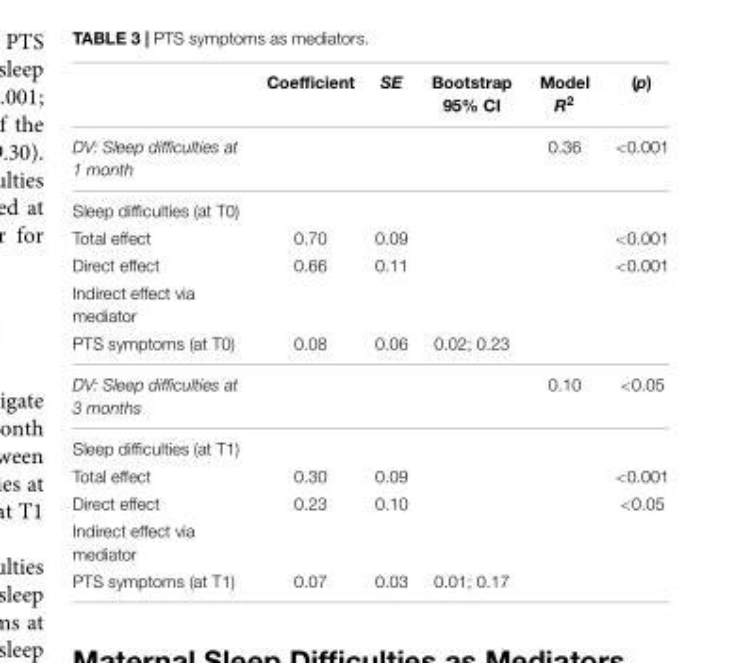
<table><thead><tr><td></td><td>Coefficient</td><td>SE</td><td>Bootstrap 95% CI</td><td>Model R<sup>2</sup></td><td>(p)</td></tr></thead><tbody><tr><td>DV: Sleep difficulties at 1 month</td><td></td><td></td><td></td><td>0.36</td><td>&lt;0.001</td></tr><tr><td colspan="6">Sleep difficulties (at T0)</td></tr><tr><td>Total effect</td><td>0.70</td><td>0.09</td><td></td><td></td><td>&lt;0.001</td></tr><tr><td>Direct effect</td><td>0.66</td><td>0.11</td><td></td><td></td><td>&lt;0.001</td></tr><tr><td colspan="6">Indirect effect via mediator</td></tr><tr><td>PTS symptoms (at T0)</td><td>0.08</td><td>0.06</td><td>0.02; 0.23</td><td></td><td></td></tr><tr><td>DV: Sleep difficulties at 3 months</td><td></td><td></td><td></td><td>0.10</td><td>&lt;0.05</td></tr><tr><td colspan="6">Sleep difficulties (at T1)</td></tr><tr><td>Total effect</td><td>0.30</td><td>0.09</td><td></td><td></td><td>&lt;0.001</td></tr><tr><td>Direct effect</td><td>0.23</td><td>0.10</td><td></td><td></td><td>&lt;0.05</td></tr><tr><td colspan="6">Indirect effect via mediator</td></tr><tr><td>PTS symptoms (at T1)</td><td>0.07</td><td>0.03</td><td>0.01; 0.17</td><td></td><td></td></tr></tbody></table>